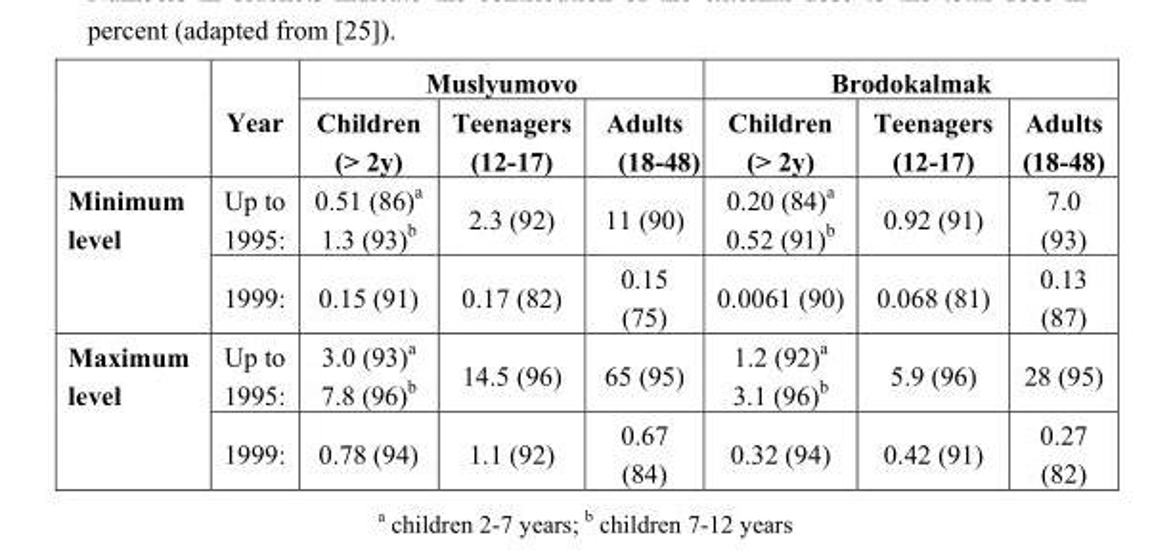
<table><thead><tr><td rowspan="2"></td><td rowspan="2">Year</td><td colspan="3">Muslyumovo</td><td colspan="3">Brodokalmak</td></tr><tr><td>Children (&gt; 2y)</td><td>Teenagers (12-17)</td><td>Adults (18-48)</td><td>Children (&gt; 2y)</td><td>Teenagers (12-17)</td><td>Adults (18-48)</td></tr></thead><tbody><tr><td rowspan="2">Minimum level</td><td>Up to 1995:</td><td>0.51 (86)<sup>a</sup> 1.3 (93)<sup>b</sup></td><td>2.3 (92)</td><td>11 (90)</td><td>0.20 (84)<sup>a</sup> 0.52 (91)<sup>b</sup></td><td>0.92 (91)</td><td>7.0 (93)</td></tr><tr><td>1999:</td><td>0.15 (91)</td><td>0.17 (82)</td><td>0.15 (75)</td><td>0.0061 (90)</td><td>0.068 (81)</td><td>0.13 (87)</td></tr><tr><td rowspan="2">Maximum level</td><td>Up to 1995:</td><td>3.0 (93)<sup>a</sup> 7.8 (96)<sup>b</sup></td><td>14.5 (96)</td><td>65 (95)</td><td>1.2 (92)<sup>a</sup> 3.1 (96)<sup>b</sup></td><td>5.9 (96)</td><td>28 (95)</td></tr><tr><td>1999:</td><td>0.78 (94)</td><td>1.1 (92)</td><td>0.67 (84)</td><td>0.32 (94)</td><td>0.42 (91)</td><td>0.27 (82)</td></tr></tbody></table>